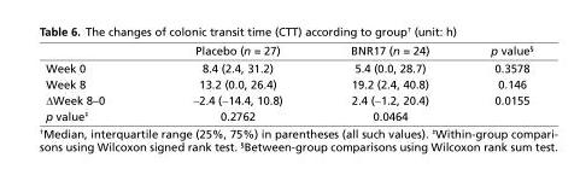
<table><thead><tr><td></td><td>Placebo (n = 27)</td><td>BNR17 (n = 24)</td><td>p value<sup>§</sup></td></tr></thead><tbody><tr><td>Week 0</td><td>8.4 (2.4, 31.2)</td><td>5.4 (0.0, 28.7)</td><td>0.3578</td></tr><tr><td>Week 8</td><td>13.2 (0.0, 26.4)</td><td>19.2 (2.4, 40.8)</td><td>0.146</td></tr><tr><td>ΔWeek 8–0</td><td>−2.4 (−14.4, 10.8)</td><td>2.4 (−1.2, 20.4)</td><td>0.0155</td></tr><tr><td>p value<sup>‡</sup></td><td>0.2762</td><td>0.0464</td><td></td></tr></tbody></table>